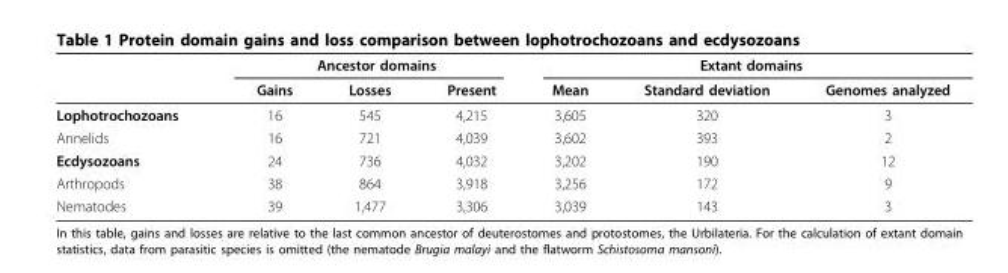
<table><thead><tr><td rowspan="2"></td><td colspan="3">Ancestor domains</td><td colspan="3">Extant domains</td></tr><tr><td>Gains</td><td>Losses</td><td>Present</td><td>Mean</td><td>Standard deviation</td><td>Genomes analyzed</td></tr></thead><tbody><tr><td>Lophotrochozoans</td><td>16</td><td>545</td><td>4,215</td><td>3,605</td><td>320</td><td>3</td></tr><tr><td>Annelids</td><td>16</td><td>721</td><td>4,039</td><td>3,602</td><td>393</td><td>2</td></tr><tr><td>Ecdysozoans</td><td>24</td><td>736</td><td>4,032</td><td>3,202</td><td>190</td><td>12</td></tr><tr><td>Arthropods</td><td>38</td><td>864</td><td>3,918</td><td>3,256</td><td>172</td><td>9</td></tr><tr><td>Nematodes</td><td>39</td><td>1,477</td><td>3,306</td><td>3,039</td><td>143</td><td>3</td></tr></tbody></table>